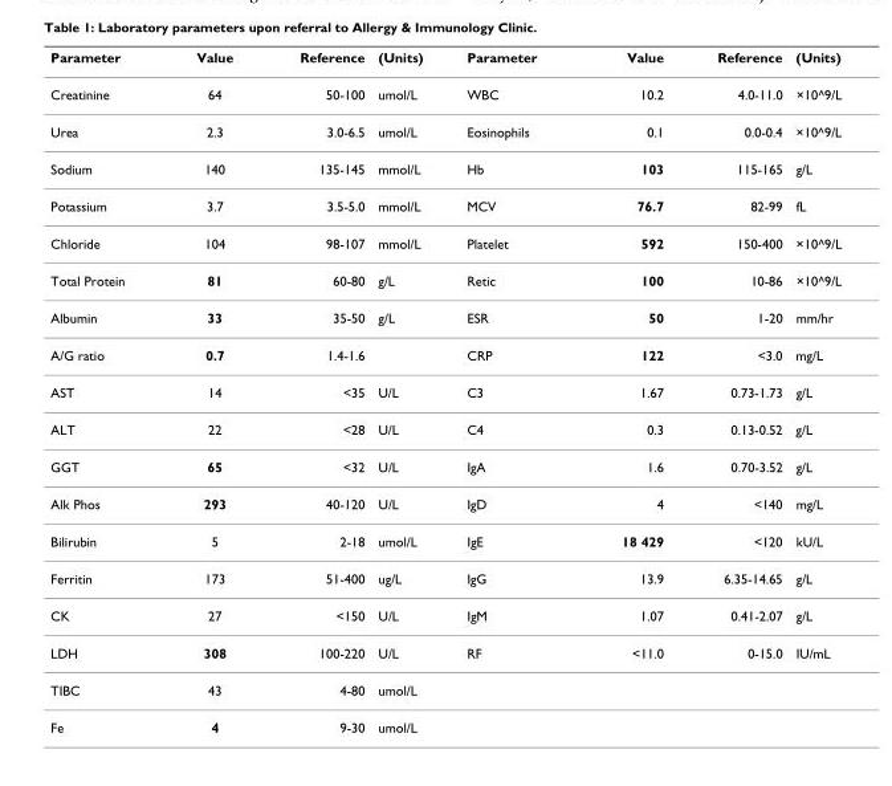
<table><thead><tr><td>Parameter</td><td>Value</td><td>Reference</td><td>(Units)</td><td>Parameter</td><td>Value</td><td>Reference</td><td>(Units)</td></tr></thead><tbody><tr><td>Creatinine</td><td>64</td><td>50-100</td><td>umol/L</td><td>WBC</td><td>10.2</td><td>4.0-11.0</td><td>×10^9/L</td></tr><tr><td>Urea</td><td>2.3</td><td>3.0-6.5</td><td>umol/L</td><td>Eosinophils</td><td>0.1</td><td>0.0-0.4</td><td>×10^9/L</td></tr><tr><td>Sodium</td><td>140</td><td>135-145</td><td>mmol/L</td><td>Hb</td><td>103</td><td>115-165</td><td>g/L</td></tr><tr><td>Potassium</td><td>3.7</td><td>3.5-5.0</td><td>mmol/L</td><td>MCV</td><td>76.7</td><td>82-99</td><td>fL</td></tr><tr><td>Chloride</td><td>104</td><td>98-107</td><td>mmol/L</td><td>Platelet</td><td>592</td><td>150-400</td><td>×10^9/L</td></tr><tr><td>Total Protein</td><td>81</td><td>60-80</td><td>g/L</td><td>Retic</td><td>100</td><td>10-86</td><td>×10^9/L</td></tr><tr><td>Albumin</td><td>33</td><td>35-50</td><td>g/L</td><td>ESR</td><td>50</td><td>1-20</td><td>mm/hr</td></tr><tr><td>A/G ratio</td><td>0.7</td><td>1.4-1.6</td><td></td><td>CRP</td><td>122</td><td>&lt;3.0</td><td>mg/L</td></tr><tr><td>AST</td><td>14</td><td>&lt;35</td><td>U/L</td><td>C3</td><td>1.67</td><td>0.73-1.73</td><td>g/L</td></tr><tr><td>ALT</td><td>22</td><td>&lt;28</td><td>U/L</td><td>C4</td><td>0.3</td><td>0.13-0.52</td><td>g/L</td></tr><tr><td>GGT</td><td>65</td><td>&lt;32</td><td>U/L</td><td>IgA</td><td>1.6</td><td>0.70-3.52</td><td>g/L</td></tr><tr><td>Alk Phos</td><td>293</td><td>40-120</td><td>U/L</td><td>IgD</td><td>4</td><td>&lt;140</td><td>mg/L</td></tr><tr><td>Bilirubin</td><td>5</td><td>2-18</td><td>umol/L</td><td>IgE</td><td>18 429</td><td>&lt;120</td><td>kU/L</td></tr><tr><td>Ferritin</td><td>173</td><td>51-400</td><td>ug/L</td><td>IgG</td><td>13.9</td><td>6.35-14.65</td><td>g/L</td></tr><tr><td>CK</td><td>27</td><td>&lt;150</td><td>U/L</td><td>IgM</td><td>1.07</td><td>0.41-2.07</td><td>g/L</td></tr><tr><td>LDH</td><td>308</td><td>100-220</td><td>U/L</td><td>RF</td><td>&lt;11.0</td><td>0-15.0</td><td>IU/mL</td></tr><tr><td>TIBC</td><td>43</td><td>4-80</td><td>umol/L</td><td></td><td></td><td></td><td></td></tr><tr><td>Fe</td><td>4</td><td>9-30</td><td>umol/L</td><td></td><td></td><td></td><td></td></tr></tbody></table>